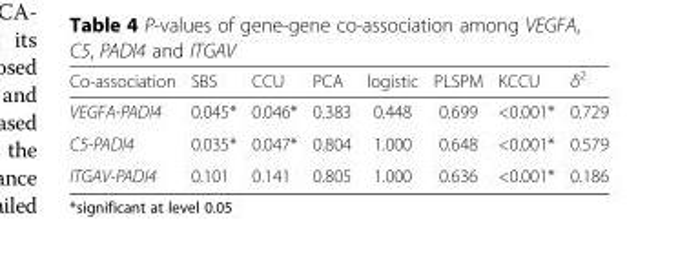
<table><thead><tr><td>Co-association</td><td>SBS</td><td>CCU</td><td>PCA</td><td>logistic</td><td>PLSPM</td><td>KCCU</td><td>δ<sup>2</sup></td></tr></thead><tbody><tr><td>VEGFA-PADI4</td><td>0.045*</td><td>0.046*</td><td>0.383</td><td>0.448</td><td>0.699</td><td>&lt;0.001*</td><td>0.729</td></tr><tr><td>C5-PADI4</td><td>0.035*</td><td>0.047*</td><td>0.804</td><td>1.000</td><td>0.648</td><td>&lt;0.001*</td><td>0.579</td></tr><tr><td>ITGAV-PADI4</td><td>0.101</td><td>0.141</td><td>0.805</td><td>1.000</td><td>0.636</td><td>&lt;0.001*</td><td>0.186</td></tr></tbody></table>